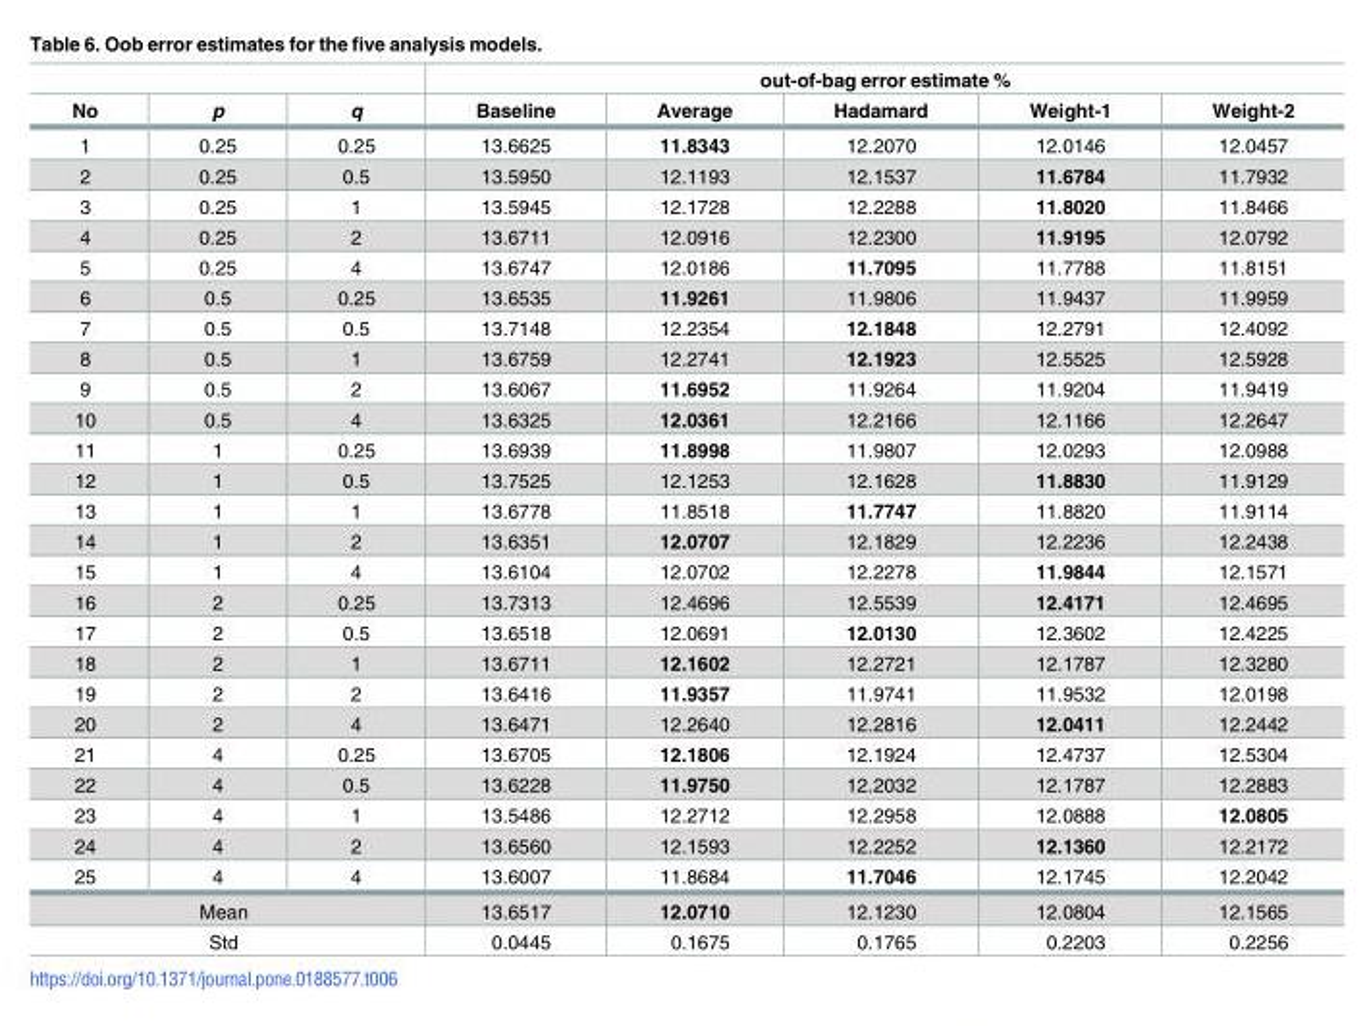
<table><thead><tr><td rowspan="2">No</td><td rowspan="2">p</td><td rowspan="2">q</td><td colspan="5">out-of-bag error estimate %</td></tr><tr><td>Baseline</td><td>Average</td><td>Hadamard</td><td>Weight-1</td><td>Weight-2</td></tr></thead><tbody><tr><td>1</td><td>0.25</td><td>0.25</td><td>13.6625</td><td>11.8343</td><td>12.2070</td><td>12.0146</td><td>12.0457</td></tr><tr><td>2</td><td>0.25</td><td>0.5</td><td>13.5950</td><td>12.1193</td><td>12.1537</td><td>11.6784</td><td>11.7932</td></tr><tr><td>3</td><td>0.25</td><td>1</td><td>13.5945</td><td>12.1728</td><td>12.2288</td><td>11.8020</td><td>11.8466</td></tr><tr><td>4</td><td>0.25</td><td>2</td><td>13.6711</td><td>12.0916</td><td>12.2300</td><td>11.9195</td><td>12.0792</td></tr><tr><td>5</td><td>0.25</td><td>4</td><td>13.6747</td><td>12.0186</td><td>11.7095</td><td>11.7788</td><td>11.8151</td></tr><tr><td>6</td><td>0.5</td><td>0.25</td><td>13.6535</td><td>11.9261</td><td>11.9806</td><td>11.9437</td><td>11.9959</td></tr><tr><td>7</td><td>0.5</td><td>0.5</td><td>13.7148</td><td>12.2354</td><td>12.1848</td><td>12.2791</td><td>12.4092</td></tr><tr><td>8</td><td>0.5</td><td>1</td><td>13.6759</td><td>12.2741</td><td>12.1923</td><td>12.5525</td><td>12.5928</td></tr><tr><td>9</td><td>0.5</td><td>2</td><td>13.6067</td><td>11.6952</td><td>11.9264</td><td>11.9204</td><td>11.9419</td></tr><tr><td>10</td><td>0.5</td><td>4</td><td>13.6325</td><td>12.0361</td><td>12.2166</td><td>12.1166</td><td>12.2647</td></tr><tr><td>11</td><td>1</td><td>0.25</td><td>13.6939</td><td>11.8998</td><td>11.9807</td><td>12.0293</td><td>12.0988</td></tr><tr><td>12</td><td>1</td><td>0.5</td><td>13.7525</td><td>12.1253</td><td>12.1628</td><td>11.8830</td><td>11.9129</td></tr><tr><td>13</td><td>1</td><td>1</td><td>13.6778</td><td>11.8518</td><td>11.7747</td><td>11.8820</td><td>11.9114</td></tr><tr><td>14</td><td>1</td><td>2</td><td>13.6351</td><td>12.0707</td><td>12.1829</td><td>12.2236</td><td>12.2438</td></tr><tr><td>15</td><td>1</td><td>4</td><td>13.6104</td><td>12.0702</td><td>12.2278</td><td>11.9844</td><td>12.1571</td></tr><tr><td>16</td><td>2</td><td>0.25</td><td>13.7313</td><td>12.4696</td><td>12.5539</td><td>12.4171</td><td>12.4695</td></tr><tr><td>17</td><td>2</td><td>0.5</td><td>13.6518</td><td>12.0691</td><td>12.0130</td><td>12.3602</td><td>12.4225</td></tr><tr><td>18</td><td>2</td><td>1</td><td>13.6711</td><td>12.1602</td><td>12.2721</td><td>12.1787</td><td>12.3280</td></tr><tr><td>19</td><td>2</td><td>2</td><td>13.6416</td><td>11.9357</td><td>11.9741</td><td>11.9532</td><td>12.0198</td></tr><tr><td>20</td><td>2</td><td>4</td><td>13.6471</td><td>12.2640</td><td>12.2816</td><td>12.0411</td><td>12.2442</td></tr><tr><td>21</td><td>4</td><td>0.25</td><td>13.6705</td><td>12.1806</td><td>12.1924</td><td>12.4737</td><td>12.5304</td></tr><tr><td>22</td><td>4</td><td>0.5</td><td>13.6228</td><td>11.9750</td><td>12.2032</td><td>12.1787</td><td>12.2883</td></tr><tr><td>23</td><td>4</td><td>1</td><td>13.5486</td><td>12.2712</td><td>12.2958</td><td>12.0888</td><td>12.0805</td></tr><tr><td>24</td><td>4</td><td>2</td><td>13.6560</td><td>12.1593</td><td>12.2252</td><td>12.1360</td><td>12.2172</td></tr><tr><td>25</td><td>4</td><td>4</td><td>13.6007</td><td>11.8684</td><td>11.7046</td><td>12.1745</td><td>12.2042</td></tr><tr><td colspan="3">Mean</td><td>13.6517</td><td>12.0710</td><td>12.1230</td><td>12.0804</td><td>12.1565</td></tr><tr><td colspan="3">Std</td><td>0.0445</td><td>0.1675</td><td>0.1765</td><td>0.2203</td><td>0.2256</td></tr></tbody></table>